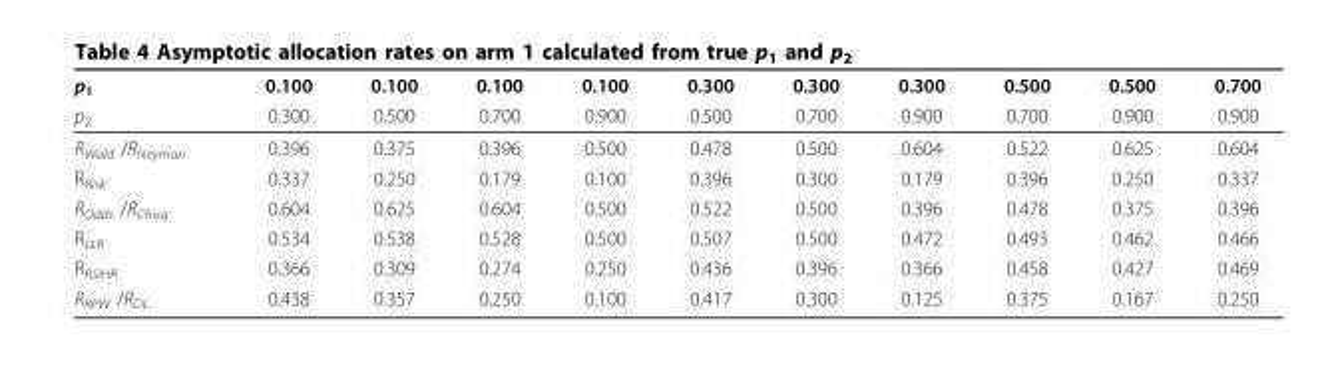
<table><thead><tr><td rowspan="2">p<sub>1</sub> p<sub>2</sub></td><td rowspan="2">0.100 0.300</td><td rowspan="2">0.100 0.500</td><td rowspan="2">0.100 0.700</td><td rowspan="2">0.100 0.900</td><td rowspan="2">0.300 0.500</td><td rowspan="2">0.300 0.700</td><td rowspan="2">0.300 0.900</td><td rowspan="2">0.500 0.700</td><td rowspan="2">0.500 0.900</td><td rowspan="2">0.700 0.900</td></tr><tr></tr></thead><tbody><tr><td>R<sub>Wald</sub> /R<sub>Neyman</sub></td><td>0.396</td><td>0.375</td><td>0.396</td><td>0.500</td><td>0.478</td><td>0.500</td><td>0.604</td><td>0.522</td><td>0.625</td><td>0.604</td></tr><tr><td>R<sub>Risk</sub></td><td>0.337</td><td>0.250</td><td>0.179</td><td>0.100</td><td>0.396</td><td>0.300</td><td>0.179</td><td>0.396</td><td>0.250</td><td>0.337</td></tr><tr><td>R<sub>Odds</sub> /R<sub>Chisq</sub></td><td>0.604</td><td>0.625</td><td>0.604</td><td>0.500</td><td>0.522</td><td>0.500</td><td>0.396</td><td>0.478</td><td>0.375</td><td>0.396</td></tr><tr><td>R<sub>LLR</sub></td><td>0.534</td><td>0.538</td><td>0.528</td><td>0.500</td><td>0.507</td><td>0.500</td><td>0.472</td><td>0.493</td><td>0.462</td><td>0.466</td></tr><tr><td>R<sub>RSIHR</sub></td><td>0.366</td><td>0.309</td><td>0.274</td><td>0.250</td><td>0.436</td><td>0.396</td><td>0.366</td><td>0.458</td><td>0.427</td><td>0.469</td></tr><tr><td>R<sub>RPW</sub> /R<sub>DL</sub></td><td>0.438</td><td>0.357</td><td>0.250</td><td>0.100</td><td>0.417</td><td>0.300</td><td>0.125</td><td>0.375</td><td>0.167</td><td>0.250</td></tr></tbody></table>